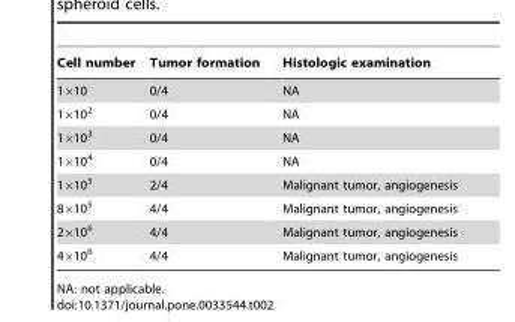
<table><thead><tr><td>Cell number</td><td>Tumor formation</td><td>Histologic examination</td></tr></thead><tbody><tr><td>1×10</td><td>0/4</td><td>NA</td></tr><tr><td>1×10<sup>2</sup></td><td>0/4</td><td>NA</td></tr><tr><td>1×10<sup>3</sup></td><td>0/4</td><td>NA</td></tr><tr><td>1×10<sup>4</sup></td><td>0/4</td><td>NA</td></tr><tr><td>1×10<sup>5</sup></td><td>2/4</td><td>Malignant tumor, angiogenesis</td></tr><tr><td>8×10<sup>5</sup></td><td>4/4</td><td>Malignant tumor, angiogenesis</td></tr><tr><td>2×10<sup>6</sup></td><td>4/4</td><td>Malignant tumor, angiogenesis</td></tr><tr><td>4×10<sup>6</sup></td><td>4/4</td><td>Malignant tumor, angiogenesis</td></tr></tbody></table>